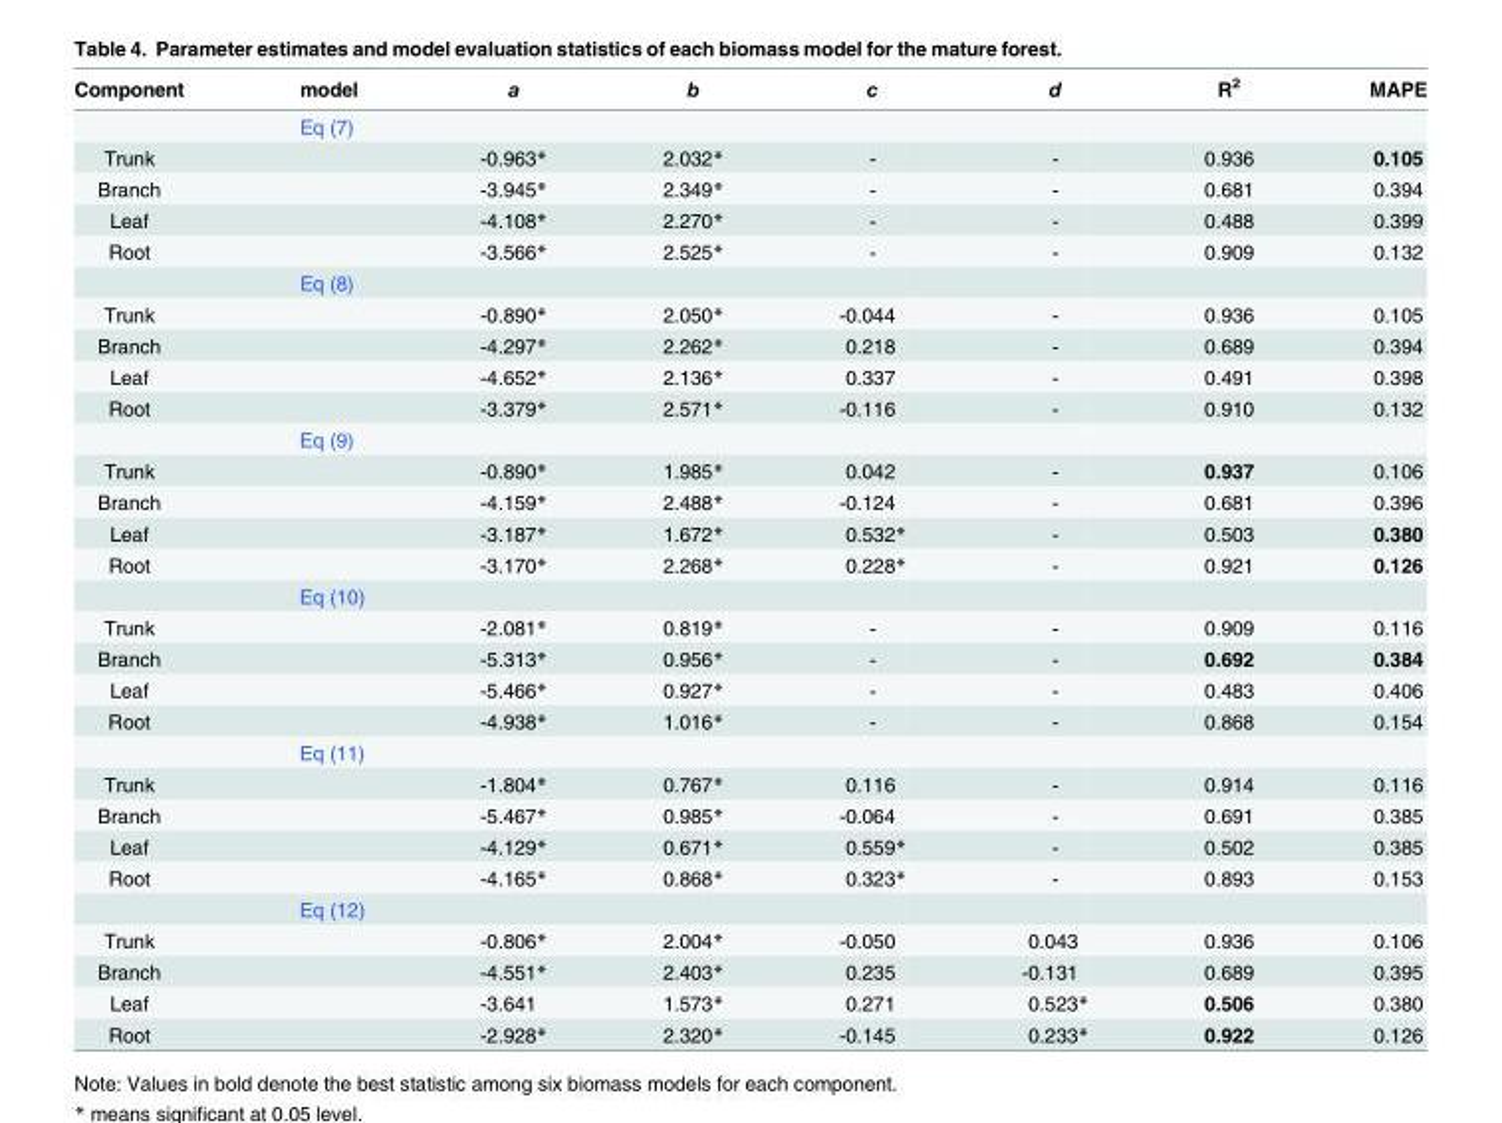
<table><thead><tr><td>Component</td><td>model</td><td>a</td><td>b</td><td>c</td><td>d</td><td>R<sup>2</sup></td><td>MAPE</td></tr></thead><tbody><tr><td></td><td>Eq (7)</td><td></td><td></td><td></td><td></td><td></td><td></td></tr><tr><td>Trunk</td><td></td><td>-0.963*</td><td>2.032*</td><td>-</td><td>-</td><td>0.936</td><td>0.105</td></tr><tr><td>Branch</td><td></td><td>-3.945*</td><td>2.349*</td><td>-</td><td>-</td><td>0.681</td><td>0.394</td></tr><tr><td>Leaf</td><td></td><td>-4.108*</td><td>2.270*</td><td>-</td><td>-</td><td>0.488</td><td>0.399</td></tr><tr><td rowspan="2">Root</td><td></td><td>-3.566*</td><td>2.525*</td><td>-</td><td>-</td><td>0.909</td><td>0.132</td></tr><tr><td>Eq (8)</td><td></td><td></td><td></td><td></td><td></td><td></td></tr><tr><td>Trunk</td><td></td><td>-0.890*</td><td>2.050*</td><td>-0.044</td><td>-</td><td>0.936</td><td>0.105</td></tr><tr><td>Branch</td><td></td><td>-4.297*</td><td>2.262*</td><td>0.218</td><td>-</td><td>0.689</td><td>0.394</td></tr><tr><td>Leaf</td><td></td><td>-4.652*</td><td>2.136*</td><td>0.337</td><td>-</td><td>0.491</td><td>0.398</td></tr><tr><td rowspan="2">Root</td><td></td><td>-3.379*</td><td>2.571*</td><td>-0.116</td><td>-</td><td>0.910</td><td>0.132</td></tr><tr><td>Eq (9)</td><td></td><td></td><td></td><td></td><td></td><td></td></tr><tr><td>Trunk</td><td></td><td>-0.890*</td><td>1.985*</td><td>0.042</td><td>-</td><td>0.937</td><td>0.106</td></tr><tr><td>Branch</td><td></td><td>-4.159*</td><td>2.488*</td><td>-0.124</td><td>-</td><td>0.681</td><td>0.396</td></tr><tr><td>Leaf</td><td></td><td>-3.187*</td><td>1.672*</td><td>0.532*</td><td>-</td><td>0.503</td><td>0.380</td></tr><tr><td rowspan="2">Root</td><td></td><td>-3.170*</td><td>2.268*</td><td>0.228*</td><td>-</td><td>0.921</td><td>0.126</td></tr><tr><td>Eq (10)</td><td></td><td></td><td></td><td></td><td></td><td></td></tr><tr><td>Trunk</td><td></td><td>-2.081*</td><td>0.819*</td><td>-</td><td>-</td><td>0.909</td><td>0.116</td></tr><tr><td>Branch</td><td></td><td>-5.313*</td><td>0.956*</td><td>-</td><td>-</td><td>0.692</td><td>0.384</td></tr><tr><td>Leaf</td><td></td><td>-5.466*</td><td>0.927*</td><td>-</td><td>-</td><td>0.483</td><td>0.406</td></tr><tr><td rowspan="2">Root</td><td></td><td>-4.938*</td><td>1.016*</td><td>-</td><td>-</td><td>0.868</td><td>0.154</td></tr><tr><td>Eq (11)</td><td></td><td></td><td></td><td></td><td></td><td></td></tr><tr><td>Trunk</td><td></td><td>-1.804*</td><td>0.767*</td><td>0.116</td><td>-</td><td>0.914</td><td>0.116</td></tr><tr><td>Branch</td><td></td><td>-5.467*</td><td>0.985*</td><td>-0.064</td><td>-</td><td>0.691</td><td>0.385</td></tr><tr><td>Leaf</td><td></td><td>-4.129*</td><td>0.671*</td><td>0.559*</td><td>-</td><td>0.502</td><td>0.385</td></tr><tr><td rowspan="2">Root</td><td></td><td>-4.165*</td><td>0.868*</td><td>0.323*</td><td>-</td><td>0.893</td><td>0.153</td></tr><tr><td>Eq (12)</td><td></td><td></td><td></td><td></td><td></td><td></td></tr><tr><td>Trunk</td><td></td><td>-0.806*</td><td>2.004*</td><td>-0.050</td><td>0.043</td><td>0.936</td><td>0.106</td></tr><tr><td>Branch</td><td></td><td>-4.551*</td><td>2.403*</td><td>0.235</td><td>-0.131</td><td>0.689</td><td>0.395</td></tr><tr><td>Leaf</td><td></td><td>-3.641</td><td>1.573*</td><td>0.271</td><td>0.523*</td><td>0.506</td><td>0.380</td></tr><tr><td>Root</td><td></td><td>-2.928*</td><td>2.320*</td><td>-0.145</td><td>0.233*</td><td>0.922</td><td>0.126</td></tr></tbody></table>